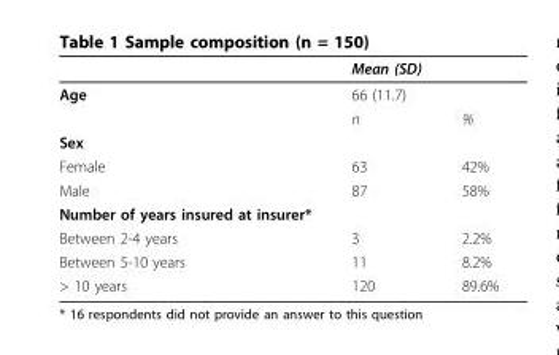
<table><thead><tr><td></td><td>Mean (SD)</td><td></td></tr></thead><tbody><tr><td rowspan="2">Age</td><td>66 (11.7)</td><td></td></tr><tr><td>n</td><td>%</td></tr><tr><td colspan="3">Sex</td></tr><tr><td>Female</td><td>63</td><td>42%</td></tr><tr><td>Male</td><td>87</td><td>58%</td></tr><tr><td colspan="3">Number of years insured at insurer*</td></tr><tr><td>Between 2-4 years</td><td>3</td><td>2.2%</td></tr><tr><td>Between 5-10 years</td><td>11</td><td>8.2%</td></tr><tr><td>&gt; 10 years</td><td>120</td><td>89.6%</td></tr></tbody></table>